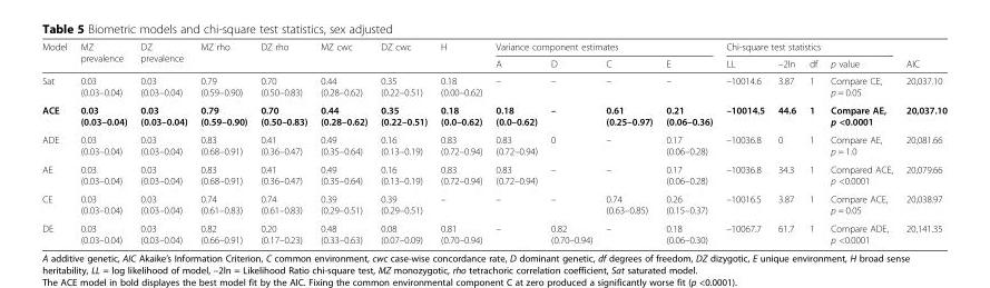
<table><thead><tr><td rowspan="2">Model</td><td rowspan="2">MZ prevalence</td><td rowspan="2">DZ prevalence</td><td rowspan="2">MZ rho</td><td rowspan="2">DZ rho</td><td rowspan="2">MZ cwc</td><td rowspan="2">DZ cwc</td><td rowspan="2">H</td><td colspan="4">Variance component estimates</td><td colspan="4">Chi-square test statistics</td><td rowspan="2">AIC</td></tr><tr><td>A</td><td>D</td><td>C</td><td>E</td><td>LL</td><td>–2ln</td><td>df</td><td>p value</td></tr></thead><tbody><tr><td>Sat</td><td>0.03 (0.03–0.04)</td><td>0.03 (0.03–0.04)</td><td>0.79 (0.59–0.90)</td><td>0.70 (0.50–0.83)</td><td>0.44 (0.28–0.62)</td><td>0.35 (0.22–0.51)</td><td>0.18 (0.00–0.62)</td><td>–</td><td>–</td><td>–</td><td>–</td><td>–10014.6</td><td>3.87</td><td>1</td><td>Compare CE, p = 0.05</td><td>20,037.10</td></tr><tr><td>ACE</td><td>0.03 (0.03–0.04)</td><td>0.03 (0.03–0.04)</td><td>0.79 (0.59–0.90)</td><td>0.70 (0.50–0.83)</td><td>0.44 (0.28–0.62)</td><td>0.35 (0.22–0.51)</td><td>0.18 (0.0–0.62)</td><td>0.18 (0.0–0.62)</td><td>–</td><td>0.61 (0.25–0.97)</td><td>0.21 (0.06–0.36)</td><td>–10014.5</td><td>44.6</td><td>1</td><td>Compare AE, p &lt;0.0001</td><td>20,037.10</td></tr><tr><td>ADE</td><td>0.03 (0.03–0.04)</td><td>0.03 (0.03–0.04)</td><td>0.83 (0.68–0.91)</td><td>0.41 (0.36–0.47)</td><td>0.49 (0.35–0.64)</td><td>0.16 (0.13–0.19)</td><td>0.83 (0.72–0.94)</td><td>0.83 (0.72–0.94)</td><td>0</td><td>–</td><td>0.17 (0.06–0.28)</td><td>–10036.8</td><td>0</td><td>1</td><td>Compare AE, p = 1.0</td><td>20,081.66</td></tr><tr><td>AE</td><td>0.03 (0.03–0.04)</td><td>0.03 (0.03–0.04)</td><td>0.83 (0.68–0.91)</td><td>0.41 (0.36–0.47)</td><td>0.49 (0.35–0.64)</td><td>0.16 (0.13–0.19)</td><td>0.83 (0.72–0.94)</td><td>0.83 (0.72–0.94)</td><td>–</td><td>–</td><td>0.17 (0.06–0.28)</td><td>–10036.8</td><td>34.3</td><td>1</td><td>Compared ACE, p &lt;0.0001</td><td>20,079.66</td></tr><tr><td>CE</td><td>0.03 (0.03–0.04)</td><td>0.03 (0.03–0.04)</td><td>0.74 (0.61–0.83)</td><td>0.74 (0.61–0.83)</td><td>0.39 (0.29–0.51)</td><td>0.39 (0.29–0.51)</td><td>–</td><td>–</td><td>–</td><td>0.74 (0.63–0.85)</td><td>0.26 (0.15–0.37)</td><td>–10016.5</td><td>3.87</td><td>1</td><td>Compare ACE, p = 0.05</td><td>20,038.97</td></tr><tr><td>DE</td><td>0.03 (0.03–0.04)</td><td>0.03 (0.03–0.04)</td><td>0.82 (0.66–0.91)</td><td>0.20 (0.17–0.23)</td><td>0.48 (0.33–0.63)</td><td>0.08 (0.07–0.09)</td><td>0.81 (0.70–0.94)</td><td>–</td><td>0.82 (0.70–0.94)</td><td>–</td><td>0.18 (0.06–0.30)</td><td>–10067.7</td><td>61.7</td><td>1</td><td>Compare ADE, p &lt;0.0001</td><td>20,141.35</td></tr></tbody></table>